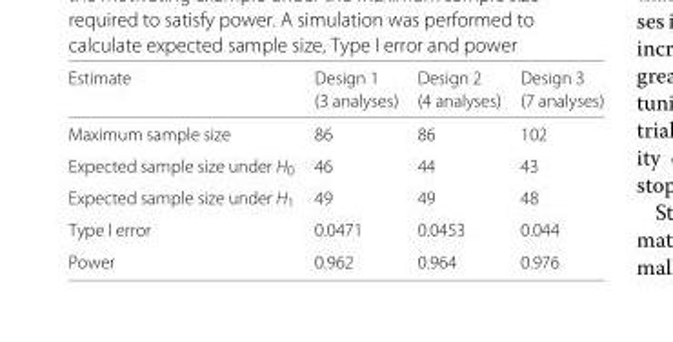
<table><thead><tr><td rowspan="2">Estimate</td><td rowspan="2">Design 1 (3 analyses)</td><td rowspan="2">Design 2 (4 analyses)</td><td rowspan="2">Design 3 (7 analyses)</td></tr><tr></tr></thead><tbody><tr><td>Maximum sample size</td><td>86</td><td>86</td><td>102</td></tr><tr><td>Expected sample size under H<sub>0</sub></td><td>46</td><td>44</td><td>43</td></tr><tr><td>Expected sample size under H<sub>1</sub></td><td>49</td><td>49</td><td>48</td></tr><tr><td>Type I error</td><td>0.0471</td><td>0.0453</td><td>0.044</td></tr><tr><td>Power</td><td>0.962</td><td>0.964</td><td>0.976</td></tr></tbody></table>